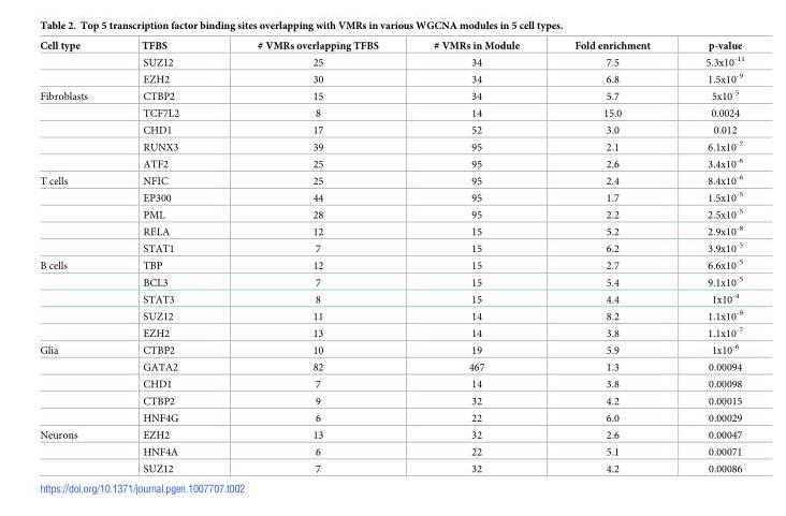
<table><thead><tr><td>Cell type</td><td>TFBS</td><td># VMRs overlapping TFBS</td><td># VMRs in Module</td><td>Fold enrichment</td><td>p-value</td></tr></thead><tbody><tr><td></td><td>SUZ12</td><td>25</td><td>34</td><td>7.5</td><td>5.3x10<sup>-11</sup></td></tr><tr><td></td><td>EZH2</td><td>30</td><td>34</td><td>6.8</td><td>1.5x10<sup>-9</sup></td></tr><tr><td rowspan="5">Fibroblasts</td><td>CTBP2</td><td>15</td><td>34</td><td>5.7</td><td>5x10<sup>-5</sup></td></tr><tr><td>TCF7L2</td><td>8</td><td>14</td><td>15.0</td><td>0.0024</td></tr><tr><td>CHD1</td><td>17</td><td>52</td><td>3.0</td><td>0.012</td></tr><tr><td>RUNX3</td><td>39</td><td>95</td><td>2.1</td><td>6.1x10<sup>-7</sup></td></tr><tr><td>ATF2</td><td>25</td><td>95</td><td>2.6</td><td>3.4x10<sup>-6</sup></td></tr><tr><td rowspan="5">T cells</td><td>NFIC</td><td>25</td><td>95</td><td>2.4</td><td>8.4x10<sup>-6</sup></td></tr><tr><td>EP300</td><td>44</td><td>95</td><td>1.7</td><td>1.5x10<sup>-5</sup></td></tr><tr><td>PML</td><td>28</td><td>95</td><td>2.2</td><td>2.5x10<sup>-5</sup></td></tr><tr><td>RELA</td><td>12</td><td>15</td><td>5.2</td><td>2.9x10<sup>-8</sup></td></tr><tr><td>STAT1</td><td>7</td><td>15</td><td>6.2</td><td>3.9x10<sup>-5</sup></td></tr><tr><td rowspan="5">B cells</td><td>TBP</td><td>12</td><td>15</td><td>2.7</td><td>6.6x10<sup>-5</sup></td></tr><tr><td>BCL3</td><td>7</td><td>15</td><td>5.4</td><td>9.1x10<sup>-5</sup></td></tr><tr><td>STAT3</td><td>8</td><td>15</td><td>4.4</td><td>1x10<sup>-4</sup></td></tr><tr><td>SUZ12</td><td>11</td><td>14</td><td>8.2</td><td>1.1x10<sup>-9</sup></td></tr><tr><td>EZH2</td><td>13</td><td>14</td><td>3.8</td><td>1.1x10<sup>-7</sup></td></tr><tr><td rowspan="5">Glia</td><td>CTBP2</td><td>10</td><td>19</td><td>5.9</td><td>1x10<sup>-6</sup></td></tr><tr><td>GATA2</td><td>82</td><td>467</td><td>1.3</td><td>0.00094</td></tr><tr><td>CHD1</td><td>7</td><td>14</td><td>3.8</td><td>0.00098</td></tr><tr><td>CTBP2</td><td>9</td><td>32</td><td>4.2</td><td>0.00015</td></tr><tr><td>HNF4G</td><td>6</td><td>22</td><td>6.0</td><td>0.00029</td></tr><tr><td rowspan="3">Neurons</td><td>EZH2</td><td>13</td><td>32</td><td>2.6</td><td>0.00047</td></tr><tr><td>HNF4A</td><td>6</td><td>22</td><td>5.1</td><td>0.00071</td></tr><tr><td>SUZ12</td><td>7</td><td>32</td><td>4.2</td><td>0.00086</td></tr></tbody></table>